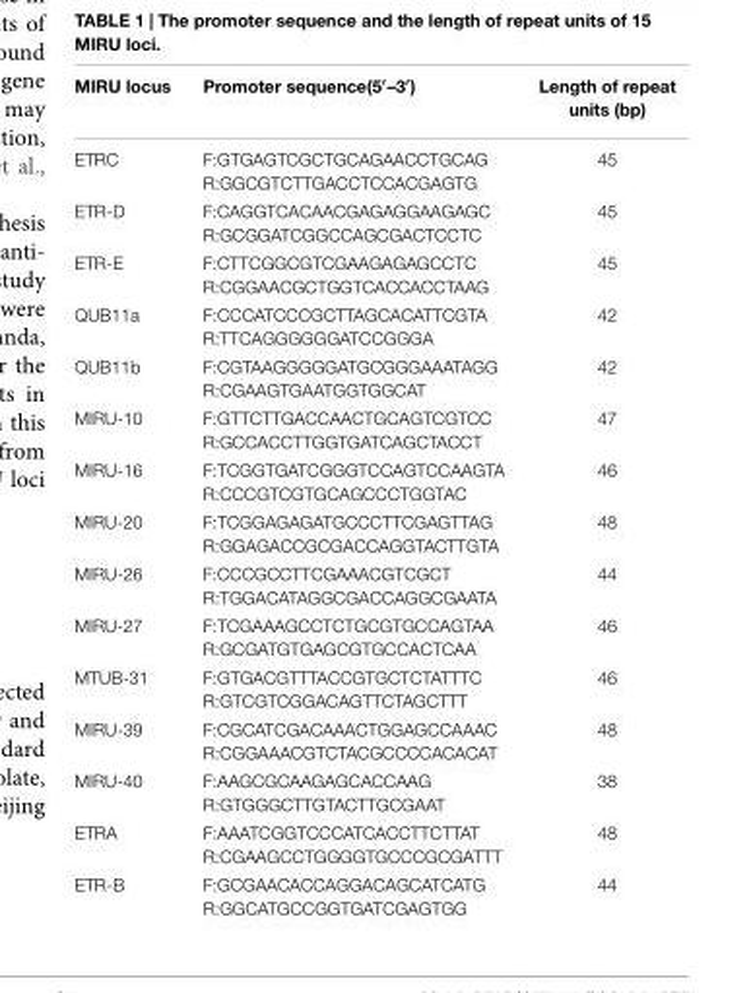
<table><thead><tr><td>MIRU locus</td><td>Promoter sequence(5′–3′)</td><td>Length of repeat units (bp)</td></tr></thead><tbody><tr><td>ETRC</td><td>F:GTGAGTCGCTGCAGAACCTGCAG R:GGCGTCTTGACCTCCACGAGTG</td><td>45</td></tr><tr><td>ETR-D</td><td>F:CAGGTCACAACGAGAGGAAGAGC R:GCGGATCGGCCAGCGACTCCTC</td><td>45</td></tr><tr><td>ETR-E</td><td>F:CTTCGGCGTCGAAGAGAGCCTC R:CGGAACGCTGGTCACCACCTAAG</td><td>45</td></tr><tr><td>QUB11a</td><td>F:CCCATCCCGCTTAGCACATTCGTA R:TTCAGGGGGGATCCGGGA</td><td>42</td></tr><tr><td>QUB11b</td><td>F:CGTAAGGGGGATGCGGGAAATAGG R:CGAAGTGAATGGTGGCAT</td><td>42</td></tr><tr><td>MIRU-10</td><td>F:GTTCTTGACCAACTGCAGTCGTCC R:GCCACCTTGGTGATCAGCTACCT</td><td>47</td></tr><tr><td>MIRU-16</td><td>F:TCGGTGATCGGGTCCAGTCCAAGTA R:CCCGTCGTGCAGCCCTGGTAC</td><td>46</td></tr><tr><td>MIRU-20</td><td>F:TCGGAGAGATGCCCTTCGAGTTAG R:GGAGACCGCGACCAGGTACTTGTA</td><td>48</td></tr><tr><td>MIRU-26</td><td>F:CCCGCCTTCGAAACGTCGCT R:TGGACATAGGCGACCAGGCGAATA</td><td>44</td></tr><tr><td>MIRU-27</td><td>F:TCGAAAGCCTCTGCGTGCCAGTAA R:GCGATGTGAGCGTGCCACTCAA</td><td>46</td></tr><tr><td>MTUB-31</td><td>F:GTGACGTTTACCGTGCTCTATTTC R:GTCGTCGGACAGTTCTAGCTTT</td><td>46</td></tr><tr><td>MIRU-39</td><td>F:CGCATCGACAAACTGGAGCCAAAC R:CGGAAACGTCTACGCCCCACACAT</td><td>48</td></tr><tr><td>MIRU-40</td><td>F:AAGCGCAAGAGCACCAAG R:GTGGGCTTGTACTTGCGAAT</td><td>38</td></tr><tr><td>ETRA</td><td>F:AAATCGGTCCCATCACCTTCTTAT R:CGAAGCCTGGGGTGCCCGCGATTT</td><td>48</td></tr><tr><td>ETR-B</td><td>F:GCGAACACCAGGACAGCATCATG R:GGCATGCCGGTGATCGAGTGG</td><td>44</td></tr></tbody></table>